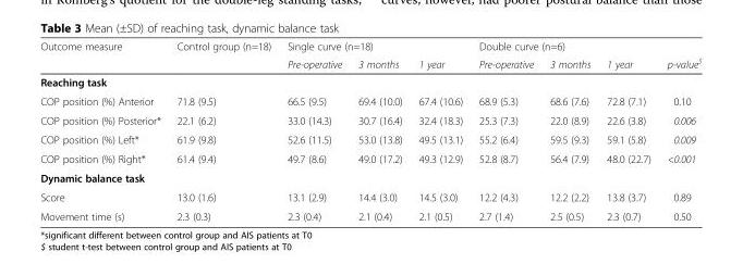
<table><thead><tr><td rowspan="2">Outcome measure</td><td rowspan="2">Control group (n=18)</td><td colspan="3">Single curve (n=18)</td><td colspan="3">Double curve (n=6)</td><td rowspan="2">p-value<sup>$</sup></td></tr><tr><td>Pre-operative</td><td>3 months</td><td>1 year</td><td>Pre-operative</td><td>3 months</td><td>1 year</td></tr></thead><tbody><tr><td colspan="9">Reaching task</td></tr><tr><td>COP position (%) Anterior</td><td>71.8 (9.5)</td><td>66.5 (9.5)</td><td>69.4 (10.0)</td><td>67.4 (10.6)</td><td>68.9 (5.3)</td><td>68.6 (7.6)</td><td>72.8 (7.1)</td><td>0.10</td></tr><tr><td>COP position (%) Posterior*</td><td>22.1 (6.2)</td><td>33.0 (14.3)</td><td>30.7 (16.4)</td><td>32.4 (18.3)</td><td>25.3 (7.3)</td><td>22.0 (8.9)</td><td>22.6 (3.8)</td><td>0.006</td></tr><tr><td>COP position (%) Left*</td><td>61.9 (9.8)</td><td>52.6 (11.5)</td><td>53.0 (13.8)</td><td>49.5 (13.1)</td><td>55.2 (6.4)</td><td>59.5 (9.3)</td><td>59.1 (5.8)</td><td>0.009</td></tr><tr><td>COP position (%) Right*</td><td>61.4 (9.4)</td><td>49.7 (8.6)</td><td>49.0 (17.2)</td><td>49.3 (12.9)</td><td>52.8 (8.7)</td><td>56.4 (7.9)</td><td>48.0 (22.7)</td><td>&lt;0.001</td></tr><tr><td colspan="9">Dynamic balance task</td></tr><tr><td>Score</td><td>13.0 (1.6)</td><td>13.1 (2.9)</td><td>14.4 (3.0)</td><td>14.5 (3.0)</td><td>12.2 (4.3)</td><td>12.2 (2.2)</td><td>13.8 (3.7)</td><td>0.89</td></tr><tr><td>Movement time (s)</td><td>2.3 (0.3)</td><td>2.3 (0.4)</td><td>2.1 (0.4)</td><td>2.1 (0.5)</td><td>2.7 (1.4)</td><td>2.5 (0.5)</td><td>2.3 (0.7)</td><td>0.50</td></tr></tbody></table>